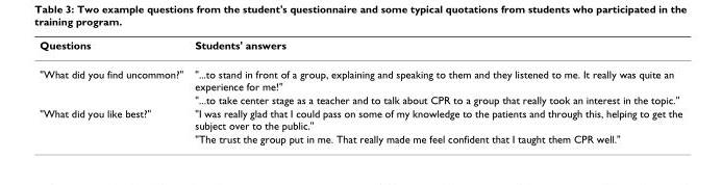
<table><thead><tr><td>Questions</td><td>Students&#x27; answers</td></tr></thead><tbody><tr><td rowspan="2">&quot;What did you find uncommon?&quot;</td><td>&quot;...to stand in front of a group, explaining and speaking to them and they listened to me. It really was quite an experience for me!&quot;</td></tr><tr><td>&quot;...to take center stage as a teacher and to talk about CPR to a group that really took an interest in the topic.&quot;</td></tr><tr><td rowspan="2">&quot;What did you like best?&quot;</td><td>&quot;I was really glad that I could pass on some of my knowledge to the patients and through this, helping to get the subject over to the public.&quot;</td></tr><tr><td>&quot;The trust the group put in me. That really made me feel confident that I taught them CPR well.&quot;</td></tr></tbody></table>